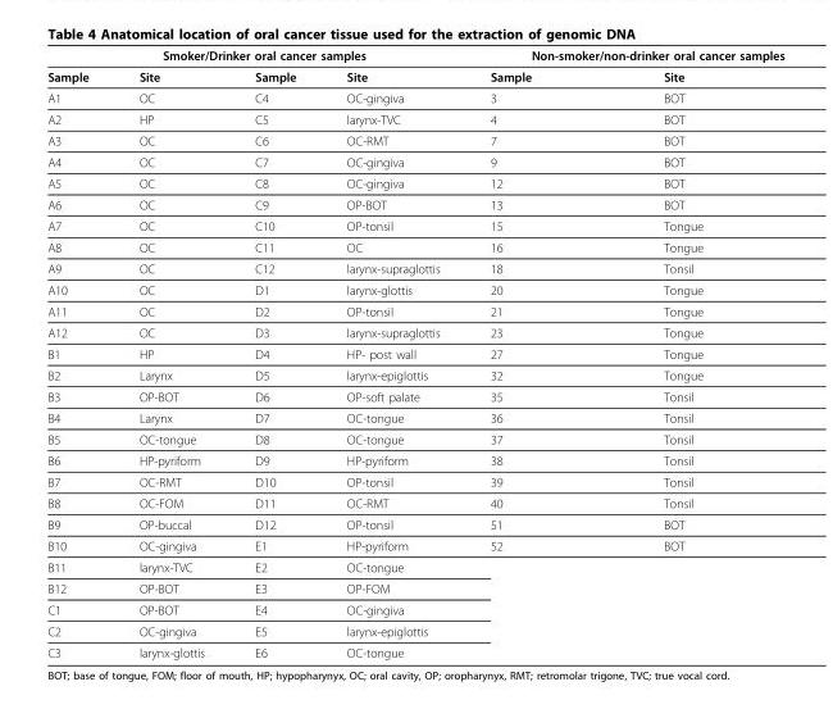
<table><thead><tr><td colspan="4">Smoker/Drinker oral cancer samples</td><td colspan="2">Non-smoker/non-drinker oral cancer samples</td></tr><tr><td>Sample</td><td>Site</td><td>Sample</td><td>Site</td><td>Sample</td><td>Site</td></tr></thead><tbody><tr><td>A1</td><td>OC</td><td>C4</td><td>OC-gingiva</td><td>3</td><td>BOT</td></tr><tr><td>A2</td><td>HP</td><td>C5</td><td>larynx-TVC</td><td>4</td><td>BOT</td></tr><tr><td>A3</td><td>OC</td><td>C6</td><td>OC-RMT</td><td>7</td><td>BOT</td></tr><tr><td>A4</td><td>OC</td><td>C7</td><td>OC-gingiva</td><td>9</td><td>BOT</td></tr><tr><td>A5</td><td>OC</td><td>C8</td><td>OC-gingiva</td><td>12</td><td>BOT</td></tr><tr><td>A6</td><td>OC</td><td>C9</td><td>OP-BOT</td><td>13</td><td>BOT</td></tr><tr><td>A7</td><td>OC</td><td>C10</td><td>OP-tonsil</td><td>15</td><td>Tongue</td></tr><tr><td>A8</td><td>OC</td><td>C11</td><td>OC</td><td>16</td><td>Tongue</td></tr><tr><td>A9</td><td>OC</td><td>C12</td><td>larynx-supraglottis</td><td>18</td><td>Tonsil</td></tr><tr><td>A10</td><td>OC</td><td>D1</td><td>larynx-glottis</td><td>20</td><td>Tongue</td></tr><tr><td>A11</td><td>OC</td><td>D2</td><td>OP-tonsil</td><td>21</td><td>Tongue</td></tr><tr><td>A12</td><td>OC</td><td>D3</td><td>larynx-supraglottis</td><td>23</td><td>Tongue</td></tr><tr><td>B1</td><td>HP</td><td>D4</td><td>HP- post wall</td><td>27</td><td>Tongue</td></tr><tr><td>B2</td><td>Larynx</td><td>D5</td><td>larynx-epiglottis</td><td>32</td><td>Tongue</td></tr><tr><td>B3</td><td>OP-BOT</td><td>D6</td><td>OP-soft palate</td><td>35</td><td>Tonsil</td></tr><tr><td>B4</td><td>Larynx</td><td>D7</td><td>OC-tongue</td><td>36</td><td>Tonsil</td></tr><tr><td>B5</td><td>OC-tongue</td><td>D8</td><td>OC-tongue</td><td>37</td><td>Tonsil</td></tr><tr><td>B6</td><td>HP-pyriform</td><td>D9</td><td>HP-pyriform</td><td>38</td><td>Tonsil</td></tr><tr><td>B7</td><td>OC-RMT</td><td>D10</td><td>OP-tonsil</td><td>39</td><td>Tonsil</td></tr><tr><td>B8</td><td>OC-FOM</td><td>D11</td><td>OC-RMT</td><td>40</td><td>Tonsil</td></tr><tr><td>B9</td><td>OP-buccal</td><td>D12</td><td>OP-tonsil</td><td>51</td><td>BOT</td></tr><tr><td>B10</td><td>OC-gingiva</td><td>E1</td><td>HP-pyriform</td><td>52</td><td>BOT</td></tr><tr><td>B11</td><td>larynx-TVC</td><td>E2</td><td>OC-tongue</td><td></td><td></td></tr><tr><td>B12</td><td>OP-BOT</td><td>E3</td><td>OP-FOM</td><td></td><td></td></tr><tr><td>C1</td><td>OP-BOT</td><td>E4</td><td>OC-gingiva</td><td></td><td></td></tr><tr><td>C2</td><td>OC-gingiva</td><td>E5</td><td>larynx-epiglottis</td><td></td><td></td></tr><tr><td>C3</td><td>larynx-glottis</td><td>E6</td><td>OC-tongue</td><td></td><td></td></tr></tbody></table>